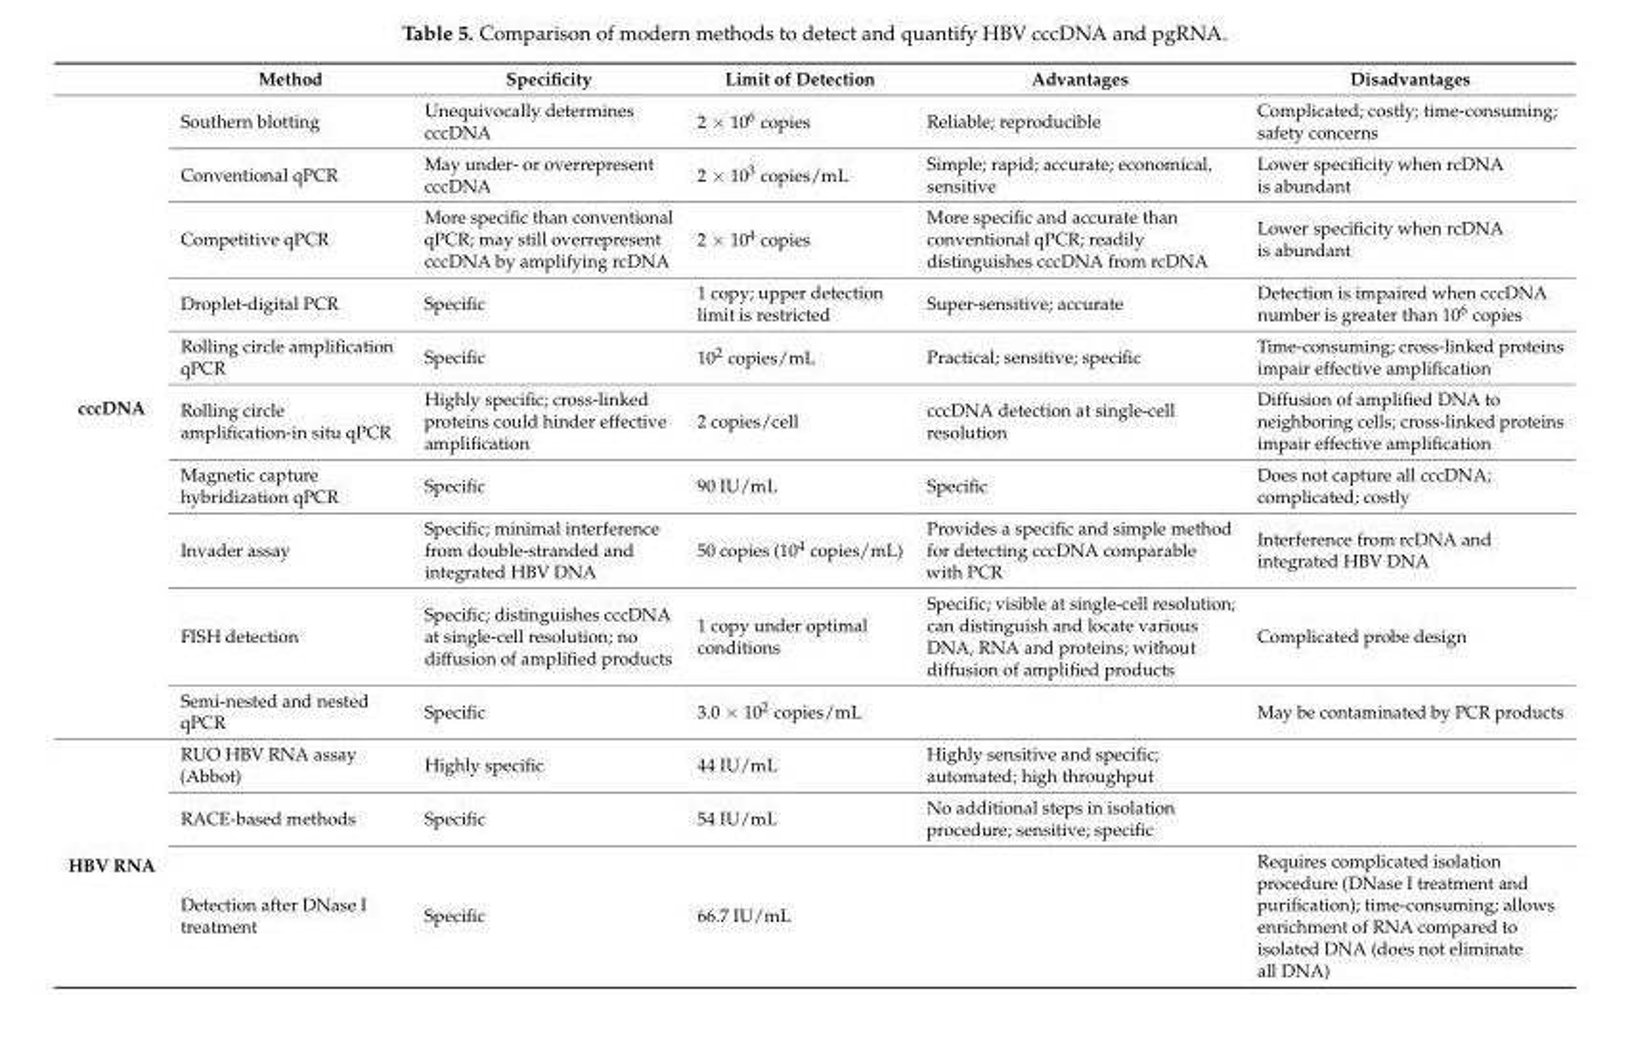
<table><thead><tr><td></td><td>Method</td><td>Specificity</td><td>Limit of Detection</td><td>Advantages</td><td>Disadvantages</td></tr></thead><tbody><tr><td rowspan="10">cccDNA</td><td>Southern blotting</td><td>Unequivocally determines cccDNA</td><td>2 × 10<sup>6</sup> copies</td><td>Reliable; reproducible</td><td>Complicated; costly; time-consuming; safety concerns</td></tr><tr><td>Conventional qPCR</td><td>May under- or overrepresent cccDNA</td><td>2 × 10<sup>3</sup> copies/mL</td><td>Simple; rapid; accurate; economical, sensitive</td><td>Lower specificity when rcDNA is abundant</td></tr><tr><td>Competitive qPCR</td><td>More specific than conventional qPCR; may still overrepresent cccDNA by amplifying rcDNA</td><td>2 × 10<sup>4</sup> copies</td><td>More specific and accurate than conventional qPCR; readily distinguishes cccDNA from rcDNA</td><td>Lower specificity when rcDNA is abundant</td></tr><tr><td>Droplet-digital PCR</td><td>Specific</td><td>1 copy; upper detection limit is restricted</td><td>Super-sensitive; accurate</td><td>Detection is impaired when cccDNA number is greater than 10<sup>6</sup> copies</td></tr><tr><td>Rolling circle amplification qPCR</td><td>Specific</td><td>10<sup>2</sup> copies/mL</td><td>Practical; sensitive; specific</td><td>Time-consuming; cross-linked proteins impair effective amplification</td></tr><tr><td>Rolling circle amplification-in situ qPCR</td><td>Highly specific; cross-linked proteins could hinder effective amplification</td><td>2 copies/cell</td><td>cccDNA detection at single-cell resolution</td><td>Diffusion of amplified DNA to neighboring cells; cross-linked proteins impair effective amplification</td></tr><tr><td>Magnetic capture hybridization qPCR</td><td>Specific</td><td>90 IU/mL</td><td>Specific</td><td>Does not capture all cccDNA; complicated; costly</td></tr><tr><td>Invader assay</td><td>Specific; minimal interference from double-stranded and integrated HBV DNA</td><td>50 copies (10<sup>4</sup> copies/mL)</td><td>Provides a specific and simple method for detecting cccDNA comparable with PCR</td><td>Interference from rcDNA and integrated HBV DNA</td></tr><tr><td>FISH detection</td><td>Specific; distinguishes cccDNA at single-cell resolution; no diffusion of amplified products</td><td>1 copy under optimal conditions</td><td>Specific; visible at single-cell resolution; can distinguish and locate various DNA, RNA and proteins; without diffusion of amplified products</td><td>Complicated probe design</td></tr><tr><td>Semi-nested and nested qPCR</td><td>Specific</td><td>3.0 × 10<sup>2</sup> copies/mL</td><td></td><td>May be contaminated by PCR products</td></tr><tr><td rowspan="3">HBV RNA</td><td>RUO HBV RNA assay (Abbot)</td><td>Highly specific</td><td>44 IU/mL</td><td>Highly sensitive and specific; automated; high throughput</td><td></td></tr><tr><td>RACE-based methods</td><td>Specific</td><td>54 IU/mL</td><td>No additional steps in isolation procedure; sensitive; specific</td><td></td></tr><tr><td>Detection after DNase I treatment</td><td>Specific</td><td>66.7 IU/mL</td><td></td><td>Requires complicated isolation procedure (DNase I treatment and purification); time-consuming; allows enrichment of RNA compared to isolated DNA (does not eliminate all DNA)</td></tr></tbody></table>